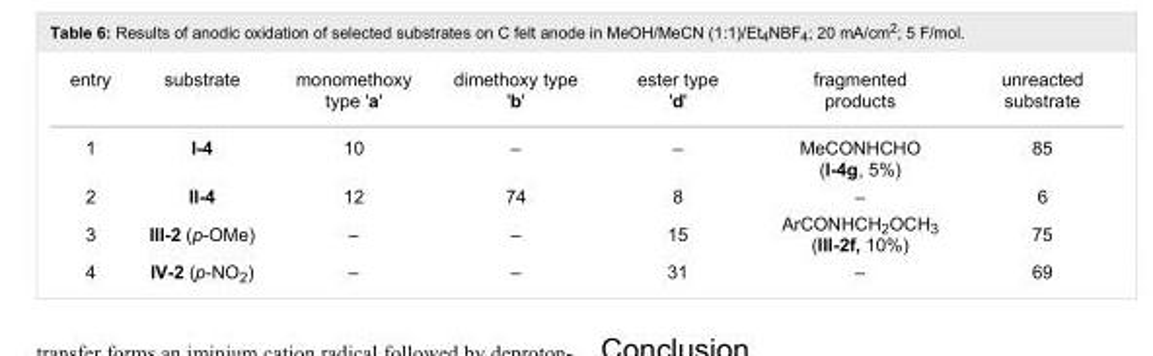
<table><tbody><tr><td>entry</td><td>substrate</td><td>monomethoxy type &#x27;a&#x27;</td><td>dimethoxy type &#x27;b&#x27;</td><td>ester type &#x27;d&#x27;</td><td>fragmented products</td><td>unreacted substrate</td></tr><tr><td>1</td><td>I-4</td><td>10</td><td>–</td><td>–</td><td>MeCONHCHO (I-4g, 5%)</td><td>85</td></tr><tr><td>2</td><td>II-4</td><td>12</td><td>74</td><td>8</td><td>–</td><td>6</td></tr><tr><td>3</td><td>III-2 (p-OMe)</td><td>–</td><td>–</td><td>15</td><td>ArCONHCH<sub>2</sub>OCH<sub>3</sub> (III-2f, 10%)</td><td>75</td></tr><tr><td>4</td><td>IV-2 (p-NO<sub>2</sub>)</td><td>–</td><td>–</td><td>31</td><td>–</td><td>69</td></tr></tbody></table>